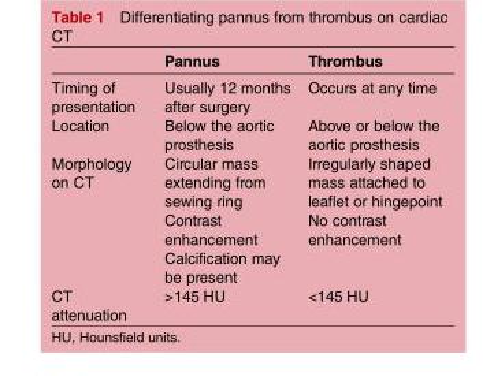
<table><thead><tr><td></td><td>Pannus</td><td>Thrombus</td></tr></thead><tbody><tr><td>Timing of presentation</td><td>Usually 12 months after surgery</td><td>Occurs at any time</td></tr><tr><td>Location</td><td>Below the aortic prosthesis</td><td>Above or below the aortic prosthesis</td></tr><tr><td>Morphology on CT</td><td>Circular mass extending from sewing ring Contrast enhancement Calcification may be present</td><td>Irregularly shaped mass attached to leaflet or hingepoint No contrast enhancement</td></tr><tr><td>CT attenuation</td><td>&gt;145 HU</td><td>&lt;145 HU</td></tr></tbody></table>